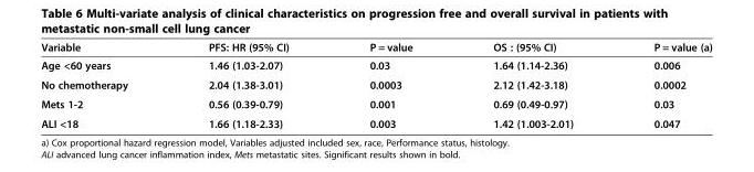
<table><thead><tr><td>Variable</td><td>PFS: HR (95% CI)</td><td>P = value</td><td>OS : (95% CI)</td><td>P = value (a)</td></tr></thead><tbody><tr><td>Age &lt;60 years</td><td>1.46 (1.03-2.07)</td><td>0.03</td><td>1.64 (1.14-2.36)</td><td>0.006</td></tr><tr><td>No chemotherapy</td><td>2.04 (1.38-3.01)</td><td>0.0003</td><td>2.12 (1.42-3.18)</td><td>0.0002</td></tr><tr><td>Mets 1-2</td><td>0.56 (0.39-0.79)</td><td>0.001</td><td>0.69 (0.49-0.97)</td><td>0.03</td></tr><tr><td>ALI &lt;18</td><td>1.66 (1.18-2.33)</td><td>0.003</td><td>1.42 (1.003-2.01)</td><td>0.047</td></tr></tbody></table>